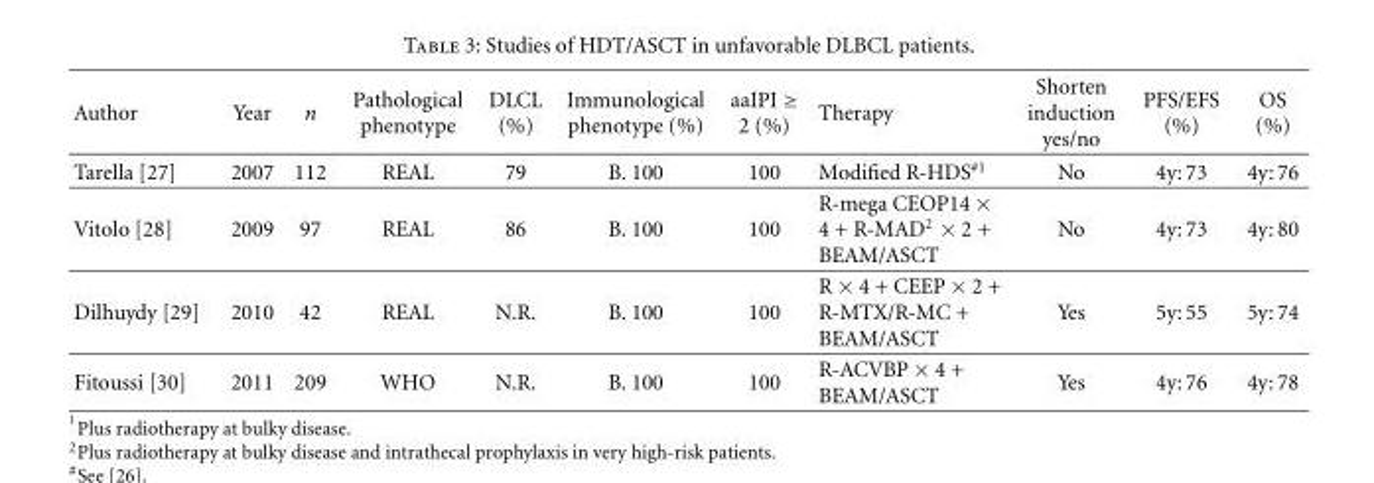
<table><thead><tr><td>Author</td><td>Year</td><td>n</td><td>Pathological phenotype</td><td>DLCL (%)</td><td>Immunological phenotype (%)</td><td>aaIPI ≥ 2 (%)</td><td>Therapy</td><td>Shorten induction yes/no</td><td>PFS/EFS (%)</td><td>OS (%)</td></tr></thead><tbody><tr><td>Tarella [27]</td><td>2007</td><td>112</td><td>REAL</td><td>79</td><td>B. 100</td><td>100</td><td>Modified R-HDS<sup>#1</sup></td><td>No</td><td>4y: 73</td><td>4y: 76</td></tr><tr><td>Vitolo [28]</td><td>2009</td><td>97</td><td>REAL</td><td>86</td><td>B. 100</td><td>100</td><td>R-mega CEOP14 × 4 + R-MAD<sup>2</sup> × 2 + BEAM/ASCT</td><td>No</td><td>4y: 73</td><td>4y: 80</td></tr><tr><td>Dilhuydy [29]</td><td>2010</td><td>42</td><td>REAL</td><td>N.R.</td><td>B. 100</td><td>100</td><td>R × 4 + CEEP × 2 + R-MTX/R-MC + BEAM/ASCT</td><td>Yes</td><td>5y: 55</td><td>5y: 74</td></tr><tr><td>Fitoussi [30]</td><td>2011</td><td>209</td><td>WHO</td><td>N.R.</td><td>B. 100</td><td>100</td><td>R-ACVBP × 4 + BEAM/ASCT</td><td>Yes</td><td>4y: 76</td><td>4y: 78</td></tr></tbody></table>